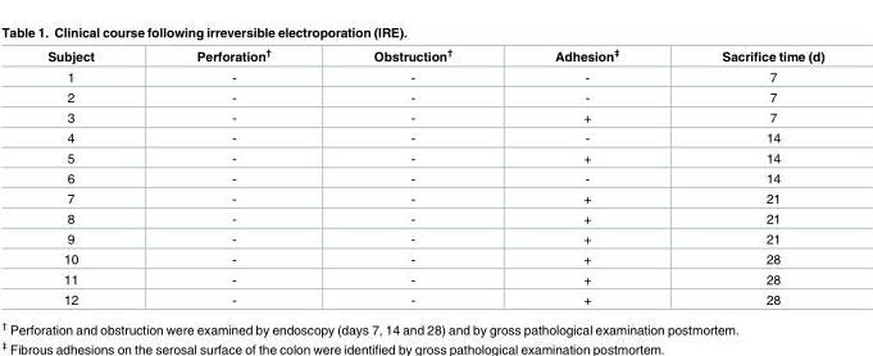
<table><thead><tr><td>Subject</td><td>Perforation<sup>†</sup></td><td>Obstruction<sup>†</sup></td><td>Adhesion<sup>‡</sup></td><td>Sacrifice time (d)</td></tr></thead><tbody><tr><td>1</td><td>-</td><td>-</td><td>-</td><td>7</td></tr><tr><td>2</td><td>-</td><td>-</td><td>-</td><td>7</td></tr><tr><td>3</td><td>-</td><td>-</td><td>+</td><td>7</td></tr><tr><td>4</td><td>-</td><td>-</td><td>-</td><td>14</td></tr><tr><td>5</td><td>-</td><td>-</td><td>+</td><td>14</td></tr><tr><td>6</td><td>-</td><td>-</td><td>-</td><td>14</td></tr><tr><td>7</td><td>-</td><td>-</td><td>+</td><td>21</td></tr><tr><td>8</td><td>-</td><td>-</td><td>+</td><td>21</td></tr><tr><td>9</td><td>-</td><td>-</td><td>+</td><td>21</td></tr><tr><td>10</td><td>-</td><td>-</td><td>+</td><td>28</td></tr><tr><td>11</td><td>-</td><td>-</td><td>+</td><td>28</td></tr><tr><td>12</td><td>-</td><td>-</td><td>+</td><td>28</td></tr></tbody></table>